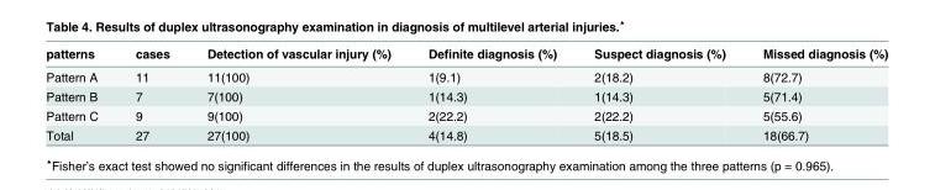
<table><thead><tr><td>patterns</td><td>cases</td><td>Detection of vascular injury (%)</td><td>Definite diagnosis (%)</td><td>Suspect diagnosis (%)</td><td>Missed diagnosis (%)</td></tr></thead><tbody><tr><td>Pattern A</td><td>11</td><td>11(100)</td><td>1(9.1)</td><td>2(18.2)</td><td>8(72.7)</td></tr><tr><td>Pattern B</td><td>7</td><td>7(100)</td><td>1(14.3)</td><td>1(14.3)</td><td>5(71.4)</td></tr><tr><td>Pattern C</td><td>9</td><td>9(100)</td><td>2(22.2)</td><td>2(22.2)</td><td>5(55.6)</td></tr><tr><td>Total</td><td>27</td><td>27(100)</td><td>4(14.8)</td><td>5(18.5)</td><td>18(66.7)</td></tr></tbody></table>